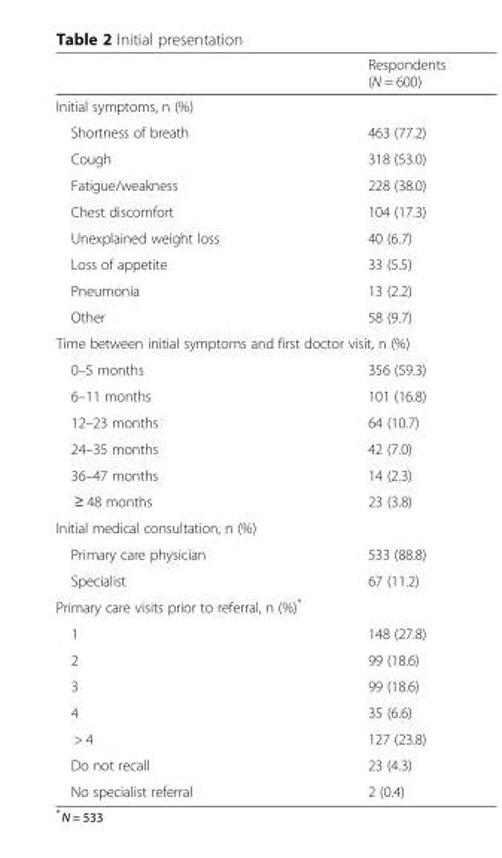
<table><thead><tr><td></td><td>Respondents (N = 600)</td></tr></thead><tbody><tr><td colspan="2">Initial symptoms, n (%)</td></tr><tr><td>Shortness of breath</td><td>463 (77.2)</td></tr><tr><td>Cough</td><td>318 (53.0)</td></tr><tr><td>Fatigue/weakness</td><td>228 (38.0)</td></tr><tr><td>Chest discomfort</td><td>104 (17.3)</td></tr><tr><td>Unexplained weight loss</td><td>40 (6.7)</td></tr><tr><td>Loss of appetite</td><td>33 (5.5)</td></tr><tr><td>Pneumonia</td><td>13 (2.2)</td></tr><tr><td>Other</td><td>58 (9.7)</td></tr><tr><td colspan="2">Time between initial symptoms and first doctor visit, n (%)</td></tr><tr><td>0–5 months</td><td>356 (59.3)</td></tr><tr><td>6–11 months</td><td>101 (16.8)</td></tr><tr><td>12–23 months</td><td>64 (10.7)</td></tr><tr><td>24–35 months</td><td>42 (7.0)</td></tr><tr><td>36–47 months</td><td>14 (2.3)</td></tr><tr><td>≥ 48 months</td><td>23 (3.8)</td></tr><tr><td colspan="2">Initial medical consultation, n (%)</td></tr><tr><td>Primary care physician</td><td>533 (88.8)</td></tr><tr><td>Specialist</td><td>67 (11.2)</td></tr><tr><td colspan="2">Primary care visits prior to referral, n (%)*</td></tr><tr><td>1</td><td>148 (27.8)</td></tr><tr><td>2</td><td>99 (18.6)</td></tr><tr><td>3</td><td>99 (18.6)</td></tr><tr><td>4</td><td>35 (6.6)</td></tr><tr><td>&gt; 4</td><td>127 (23.8)</td></tr><tr><td>Do not recall</td><td>23 (4.3)</td></tr><tr><td>No specialist referral</td><td>2 (0.4)</td></tr></tbody></table>